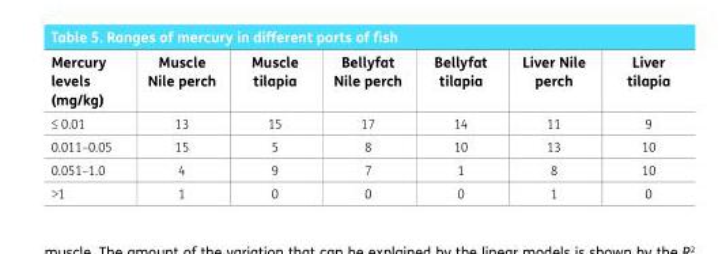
<table><thead><tr><td>Mercury levels (mg/kg)</td><td>Muscle Nile perch</td><td>Muscle tilapia</td><td>Bellyfat Nile perch</td><td>Bellyfat tilapia</td><td>Liver Nile perch</td><td>Liver tilapia</td></tr></thead><tbody><tr><td>≤ 0.01</td><td>13</td><td>15</td><td>17</td><td>14</td><td>11</td><td>9</td></tr><tr><td>0.011–0.05</td><td>15</td><td>5</td><td>8</td><td>10</td><td>13</td><td>10</td></tr><tr><td>0.051–1.0</td><td>4</td><td>9</td><td>7</td><td>1</td><td>8</td><td>10</td></tr><tr><td>&gt;1</td><td>1</td><td>0</td><td>0</td><td>0</td><td>1</td><td>0</td></tr></tbody></table>